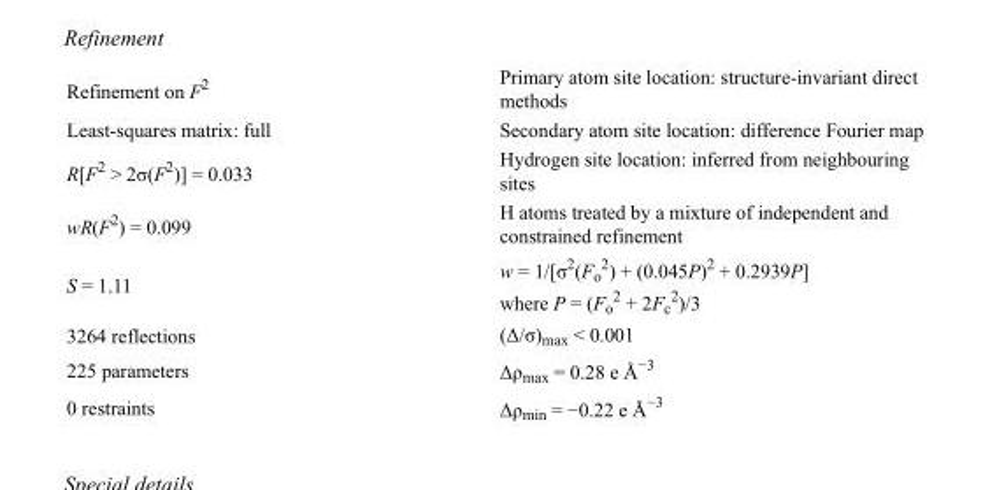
<table><tbody><tr><td>Refinement on F<sup>2</sup></td><td>Primary atom site location: structure-invariant direct methods</td></tr><tr><td>Least-squares matrix: full</td><td>Secondary atom site location: difference Fourier map</td></tr><tr><td>R[F<sup>2</sup> &gt; 2σ(F<sup>2</sup>)] = 0.033</td><td>Hydrogen site location: inferred from neighbouring sites</td></tr><tr><td>wR(F<sup>2</sup>) = 0.099</td><td>H atoms treated by a mixture of independent and constrained refinement</td></tr><tr><td>S = 1.11</td><td>w = 1/[σ<sup>2</sup>(F<sub>o</sub> <sup>2</sup>) + (0.045P)<sup>2</sup> + 0.2939P] where P = (F<sub>o</sub> <sup>2</sup> + 2F<sub>c</sub> <sup>2</sup>)/3</td></tr><tr><td>3264 reflections</td><td>(Δ/σ)<sub>max</sub> &lt; 0.001</td></tr><tr><td>225 parameters</td><td>Δρ<sub>max</sub> = 0.28 e Å<sup>−3</sup></td></tr><tr><td>0 restraints</td><td>Δρ<sub>min</sub> = −0.22 e Å<sup>−3</sup></td></tr></tbody></table>